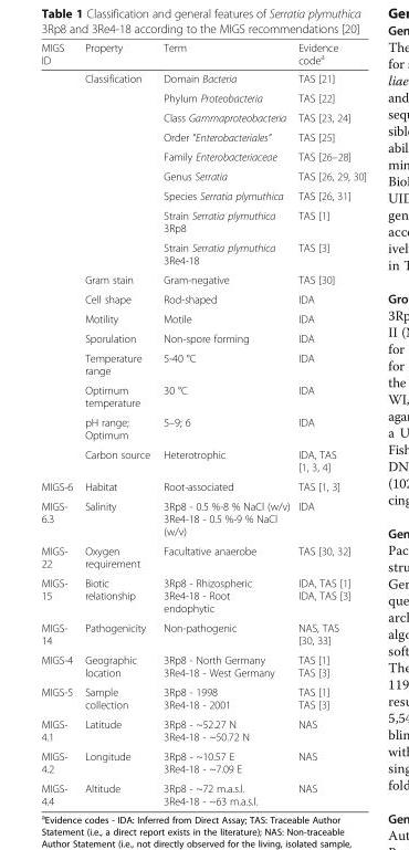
<table><thead><tr><td>MIGS ID</td><td>Property</td><td>Term</td><td>Evidence code<sup>a</sup></td></tr></thead><tbody><tr><td></td><td>Classification</td><td>Domain Bacteria</td><td>TAS [21]</td></tr><tr><td></td><td></td><td>Phylum Proteobacteria</td><td>TAS [22]</td></tr><tr><td></td><td></td><td>Class Gammaproteobacteria</td><td>TAS [23, 24]</td></tr><tr><td></td><td></td><td>Order “Enterobacteriales”</td><td>TAS [25]</td></tr><tr><td></td><td></td><td>Family Enterobacteriaceae</td><td>TAS [26–28]</td></tr><tr><td></td><td></td><td>Genus Serratia</td><td>TAS [26, 29, 30]</td></tr><tr><td></td><td></td><td>Species Serratia plymuthica</td><td>TAS [26, 31]</td></tr><tr><td></td><td></td><td>Strain Serratia plymuthica 3Rp8</td><td>TAS [1]</td></tr><tr><td></td><td></td><td>Strain Serratia plymuthica 3Re4-18</td><td>TAS [3]</td></tr><tr><td></td><td>Gram stain</td><td>Gram-negative</td><td>TAS [30]</td></tr><tr><td></td><td>Cell shape</td><td>Rod-shaped</td><td>IDA</td></tr><tr><td></td><td>Motility</td><td>Motile</td><td>IDA</td></tr><tr><td></td><td>Sporulation</td><td>Non-spore forming</td><td>IDA</td></tr><tr><td></td><td>Temperature range</td><td>5-40 °C</td><td>IDA</td></tr><tr><td></td><td>Optimum temperature</td><td>30 °C</td><td>IDA</td></tr><tr><td></td><td>pH range; Optimum</td><td>5–9; 6</td><td>IDA</td></tr><tr><td></td><td>Carbon source</td><td>Heterotrophic</td><td>IDA, TAS [1, 3, 4]</td></tr><tr><td>MIGS-6</td><td>Habitat</td><td>Root-associated</td><td>TAS [1, 3]</td></tr><tr><td>MIGS- 6.3</td><td>Salinity</td><td>3Rp8 - 0.5 %-8 % NaCl (w/v) 3Re4-18 - 0.5 %-9 % NaCl (w/v)</td><td>IDA</td></tr><tr><td>MIGS- 22</td><td>Oxygen requirement</td><td>Facultative anaerobe</td><td>TAS [30, 32]</td></tr><tr><td>MIGS- 15</td><td>Biotic relationship</td><td>3Rp8 - Rhizospheric 3Re4-18 - Root endophytic</td><td>IDA, TAS [1] IDA, TAS [3]</td></tr><tr><td>MIGS- 14</td><td>Pathogenicity</td><td>Non-pathogenic</td><td>NAS, TAS [30, 33]</td></tr><tr><td>MIGS-4</td><td>Geographic location</td><td>3Rp8 - North Germany 3Re4-18 - West Germany</td><td>TAS [1] TAS [3]</td></tr><tr><td>MIGS-5</td><td>Sample collection</td><td>3Rp8 - 1998 3Re4-18 - 2001</td><td>TAS [1] TAS [3]</td></tr><tr><td>MIGS- 4.1</td><td>Latitude</td><td>3Rp8 - ~52.27 N 3Re4-18 - ~50.72 N</td><td>NAS</td></tr><tr><td>MIGS- 4.2</td><td>Longitude</td><td>3Rp8 - ~10.57 E 3Re4-18 - ~7.09 E</td><td>NAS</td></tr><tr><td>MIGS- 4.4</td><td>Altitude</td><td>3Rp8 - ~72 m.a.s.l. 3Re4-18 - ~63 m.a.s.l.</td><td>NAS</td></tr></tbody></table>